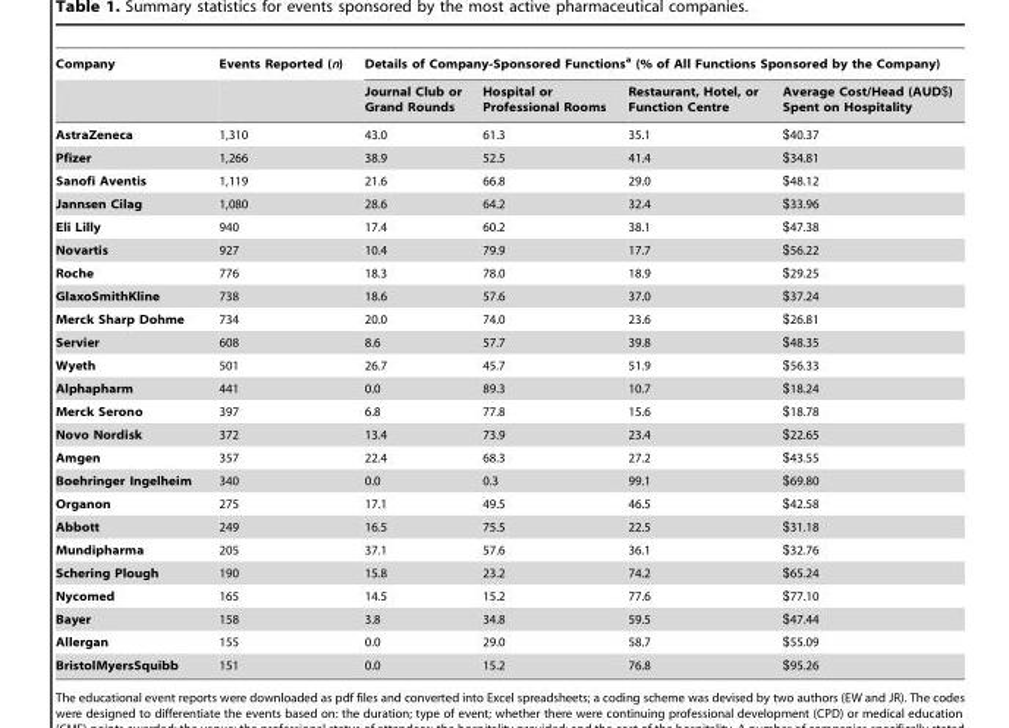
<table><thead><tr><td rowspan="2">Company</td><td rowspan="2">Events Reported (n)</td><td colspan="4">Details of Company-Sponsored Functions<sup>a</sup> (% of All Functions Sponsored by the Company)</td></tr><tr><td>Journal Club or Grand Rounds</td><td>Hospital or Professional Rooms</td><td>Restaurant, Hotel, or Function Centre</td><td>Average Cost/Head (AUD$) Spent on Hospitality</td></tr></thead><tbody><tr><td>AstraZeneca</td><td>1,310</td><td>43.0</td><td>61.3</td><td>35.1</td><td>$40.37</td></tr><tr><td>Pfizer</td><td>1,266</td><td>38.9</td><td>52.5</td><td>41.4</td><td>$34.81</td></tr><tr><td>Sanofi Aventis</td><td>1,119</td><td>21.6</td><td>66.8</td><td>29.0</td><td>$48.12</td></tr><tr><td>Jannsen Cilag</td><td>1,080</td><td>28.6</td><td>64.2</td><td>32.4</td><td>$33.96</td></tr><tr><td>Eli Lilly</td><td>940</td><td>17.4</td><td>60.2</td><td>38.1</td><td>$47.38</td></tr><tr><td>Novartis</td><td>927</td><td>10.4</td><td>79.9</td><td>17.7</td><td>$56.22</td></tr><tr><td>Roche</td><td>776</td><td>18.3</td><td>78.0</td><td>18.9</td><td>$29.25</td></tr><tr><td>GlaxoSmithKline</td><td>738</td><td>18.6</td><td>57.6</td><td>37.0</td><td>$37.24</td></tr><tr><td>Merck Sharp Dohme</td><td>734</td><td>20.0</td><td>74.0</td><td>23.6</td><td>$26.81</td></tr><tr><td>Servier</td><td>608</td><td>8.6</td><td>57.7</td><td>39.8</td><td>$48.35</td></tr><tr><td>Wyeth</td><td>501</td><td>26.7</td><td>45.7</td><td>51.9</td><td>$56.33</td></tr><tr><td>Alphapharm</td><td>441</td><td>0.0</td><td>89.3</td><td>10.7</td><td>$18.24</td></tr><tr><td>Merck Serono</td><td>397</td><td>6.8</td><td>77.8</td><td>15.6</td><td>$18.78</td></tr><tr><td>Novo Nordisk</td><td>372</td><td>13.4</td><td>73.9</td><td>23.4</td><td>$22.65</td></tr><tr><td>Amgen</td><td>357</td><td>22.4</td><td>68.3</td><td>27.2</td><td>$43.55</td></tr><tr><td>Boehringer Ingelheim</td><td>340</td><td>0.0</td><td>0.3</td><td>99.1</td><td>$69.80</td></tr><tr><td>Organon</td><td>275</td><td>17.1</td><td>49.5</td><td>46.5</td><td>$42.58</td></tr><tr><td>Abbott</td><td>249</td><td>16.5</td><td>75.5</td><td>22.5</td><td>$31.18</td></tr><tr><td>Mundipharma</td><td>205</td><td>37.1</td><td>57.6</td><td>36.1</td><td>$32.76</td></tr><tr><td>Schering Plough</td><td>190</td><td>15.8</td><td>23.2</td><td>74.2</td><td>$65.24</td></tr><tr><td>Nycomed</td><td>165</td><td>14.5</td><td>15.2</td><td>77.6</td><td>$77.10</td></tr><tr><td>Bayer</td><td>158</td><td>3.8</td><td>34.8</td><td>59.5</td><td>$47.44</td></tr><tr><td>Allergan</td><td>155</td><td>0.0</td><td>29.0</td><td>58.7</td><td>$55.09</td></tr><tr><td>BristolMyersSquibb</td><td>151</td><td>0.0</td><td>15.2</td><td>76.8</td><td>$95.26</td></tr></tbody></table>